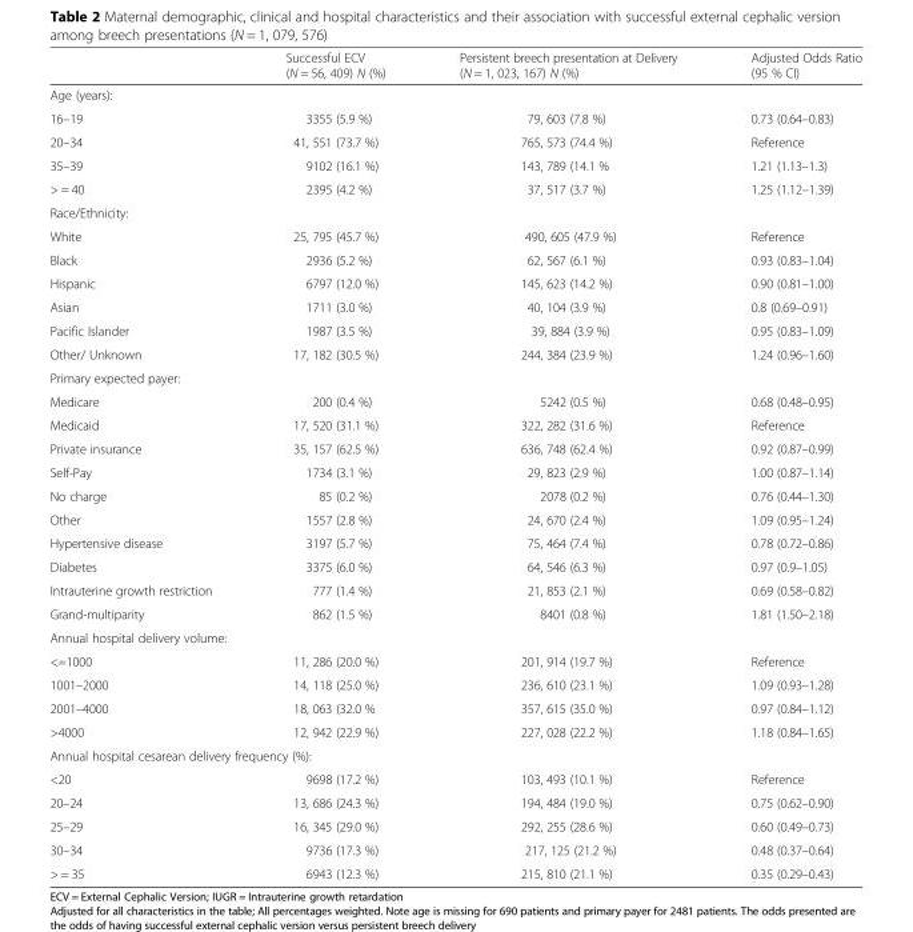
<table><thead><tr><td></td><td>Successful ECV (N = 56, 409) N (%)</td><td>Persistent breech presentation at Delivery (N = 1, 023, 167) N (%)</td><td>Adjusted Odds Ratio (95 % CI)</td></tr></thead><tbody><tr><td colspan="4">Age (years):</td></tr><tr><td>16–19</td><td>3355 (5.9 %)</td><td>79, 603 (7.8 %)</td><td>0.73 (0.64–0.83)</td></tr><tr><td>20–34</td><td>41, 551 (73.7 %)</td><td>765, 573 (74.4 %)</td><td>Reference</td></tr><tr><td>35–39</td><td>9102 (16.1 %)</td><td>143, 789 (14.1 %</td><td>1.21 (1.13–1.3)</td></tr><tr><td>&gt; = 40</td><td>2395 (4.2 %)</td><td>37, 517 (3.7 %)</td><td>1.25 (1.12–1.39)</td></tr><tr><td colspan="4">Race/Ethnicity:</td></tr><tr><td>White</td><td>25, 795 (45.7 %)</td><td>490, 605 (47.9 %)</td><td>Reference</td></tr><tr><td>Black</td><td>2936 (5.2 %)</td><td>62, 567 (6.1 %)</td><td>0.93 (0.83–1.04)</td></tr><tr><td>Hispanic</td><td>6797 (12.0 %)</td><td>145, 623 (14.2 %)</td><td>0.90 (0.81–1.00)</td></tr><tr><td>Asian</td><td>1711 (3.0 %)</td><td>40, 104 (3.9 %)</td><td>0.8 (0.69–0.91)</td></tr><tr><td>Pacific Islander</td><td>1987 (3.5 %)</td><td>39, 884 (3.9 %)</td><td>0.95 (0.83–1.09)</td></tr><tr><td>Other/ Unknown</td><td>17, 182 (30.5 %)</td><td>244, 384 (23.9 %)</td><td>1.24 (0.96–1.60)</td></tr><tr><td colspan="4">Primary expected payer:</td></tr><tr><td>Medicare</td><td>200 (0.4 %)</td><td>5242 (0.5 %)</td><td>0.68 (0.48–0.95)</td></tr><tr><td>Medicaid</td><td>17, 520 (31.1 %)</td><td>322, 282 (31.6 %)</td><td>Reference</td></tr><tr><td>Private insurance</td><td>35, 157 (62.5 %)</td><td>636, 748 (62.4 %)</td><td>0.92 (0.87–0.99)</td></tr><tr><td>Self-Pay</td><td>1734 (3.1 %)</td><td>29, 823 (2.9 %)</td><td>1.00 (0.87–1.14)</td></tr><tr><td>No charge</td><td>85 (0.2 %)</td><td>2078 (0.2 %)</td><td>0.76 (0.44–1.30)</td></tr><tr><td>Other</td><td>1557 (2.8 %)</td><td>24, 670 (2.4 %)</td><td>1.09 (0.95–1.24)</td></tr><tr><td>Hypertensive disease</td><td>3197 (5.7 %)</td><td>75, 464 (7.4 %)</td><td>0.78 (0.72–0.86)</td></tr><tr><td>Diabetes</td><td>3375 (6.0 %)</td><td>64, 546 (6.3 %)</td><td>0.97 (0.9–1.05)</td></tr><tr><td>Intrauterine growth restriction</td><td>777 (1.4 %)</td><td>21, 853 (2.1 %)</td><td>0.69 (0.58–0.82)</td></tr><tr><td>Grand-multiparity</td><td>862 (1.5 %)</td><td>8401 (0.8 %)</td><td>1.81 (1.50–2.18)</td></tr><tr><td colspan="4">Annual hospital delivery volume:</td></tr><tr><td>&lt;=1000</td><td>11, 286 (20.0 %)</td><td>201, 914 (19.7 %)</td><td>Reference</td></tr><tr><td>1001–2000</td><td>14, 118 (25.0 %)</td><td>236, 610 (23.1 %)</td><td>1.09 (0.93–1.28)</td></tr><tr><td>2001–4000</td><td>18, 063 (32.0 %</td><td>357, 615 (35.0 %)</td><td>0.97 (0.84–1.12)</td></tr><tr><td>&gt;4000</td><td>12, 942 (22.9 %)</td><td>227, 028 (22.2 %)</td><td>1.18 (0.84–1.65)</td></tr><tr><td colspan="4">Annual hospital cesarean delivery frequency (%):</td></tr><tr><td>&lt;20</td><td>9698 (17.2 %)</td><td>103, 493 (10.1 %)</td><td>Reference</td></tr><tr><td>20–24</td><td>13, 686 (24.3 %)</td><td>194, 484 (19.0 %)</td><td>0.75 (0.62–0.90)</td></tr><tr><td>25–29</td><td>16, 345 (29.0 %)</td><td>292, 255 (28.6 %)</td><td>0.60 (0.49–0.73)</td></tr><tr><td>30–34</td><td>9736 (17.3 %)</td><td>217, 125 (21.2 %)</td><td>0.48 (0.37–0.64)</td></tr><tr><td>&gt; = 35</td><td>6943 (12.3 %)</td><td>215, 810 (21.1 %)</td><td>0.35 (0.29–0.43)</td></tr></tbody></table>